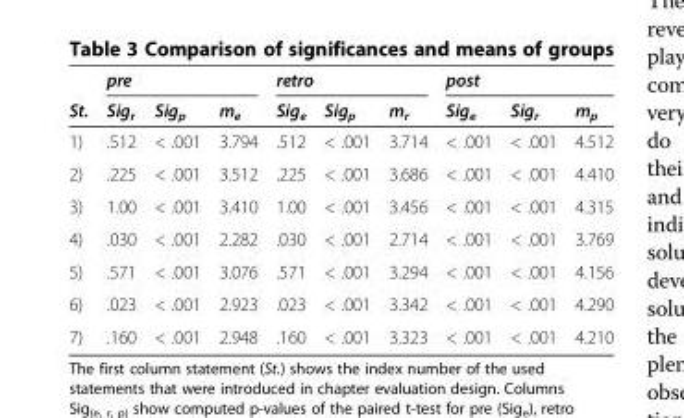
<table><thead><tr><td rowspan="2">St.</td><td colspan="3">pre</td><td colspan="3">retro</td><td colspan="3">post</td></tr><tr><td>Sig<sub>r</sub></td><td>Sig<sub>p</sub></td><td>m<sub>e</sub></td><td>Sig<sub>e</sub></td><td>Sig<sub>p</sub></td><td>m<sub>r</sub></td><td>Sig<sub>e</sub></td><td>Sig<sub>r</sub></td><td>m<sub>p</sub></td></tr></thead><tbody><tr><td>1)</td><td>.512</td><td>&lt; .001</td><td>3.794</td><td>.512</td><td>&lt; .001</td><td>3.714</td><td>&lt; .001</td><td>&lt; .001</td><td>4.512</td></tr><tr><td>2)</td><td>.225</td><td>&lt; .001</td><td>3.512</td><td>.225</td><td>&lt; .001</td><td>3.686</td><td>&lt; .001</td><td>&lt; .001</td><td>4.410</td></tr><tr><td>3)</td><td>1.00</td><td>&lt; .001</td><td>3.410</td><td>1.00</td><td>&lt; .001</td><td>3.456</td><td>&lt; .001</td><td>&lt; .001</td><td>4.315</td></tr><tr><td>4)</td><td>.030</td><td>&lt; .001</td><td>2.282</td><td>.030</td><td>&lt; .001</td><td>2.714</td><td>&lt; .001</td><td>&lt; .001</td><td>3.769</td></tr><tr><td>5)</td><td>.571</td><td>&lt; .001</td><td>3.076</td><td>.571</td><td>&lt; .001</td><td>3.294</td><td>&lt; .001</td><td>&lt; .001</td><td>4.156</td></tr><tr><td>6)</td><td>.023</td><td>&lt; .001</td><td>2.923</td><td>.023</td><td>&lt; .001</td><td>3.342</td><td>&lt; .001</td><td>&lt; .001</td><td>4.290</td></tr><tr><td>7)</td><td>.160</td><td>&lt; .001</td><td>2.948</td><td>.160</td><td>&lt; .001</td><td>3.323</td><td>&lt; .001</td><td>&lt; .001</td><td>4.210</td></tr></tbody></table>